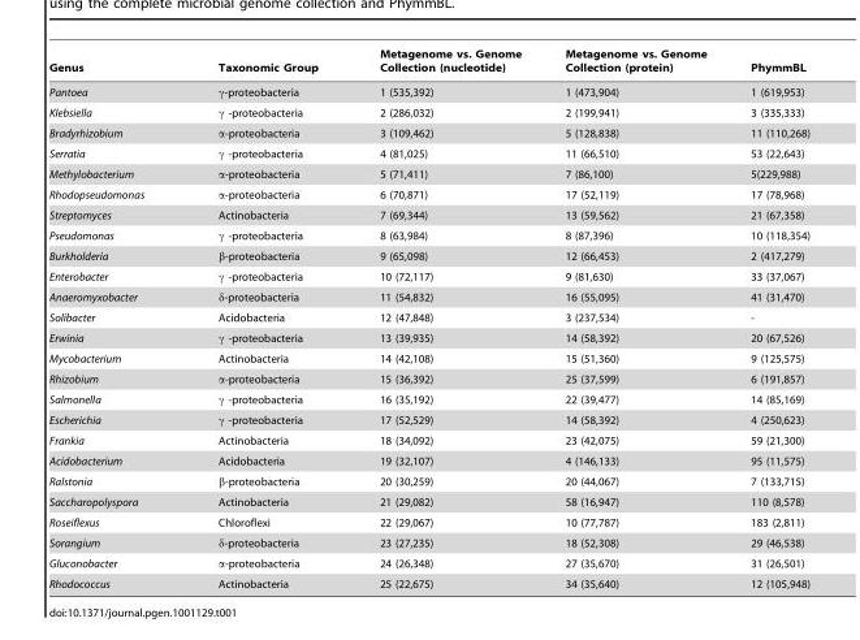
<table><thead><tr><td>Genus</td><td>Taxonomic Group</td><td>Metagenome vs. Genome Collection (nucleotide)</td><td>Metagenome vs. Genome Collection (protein)</td><td>PhymmBL</td></tr></thead><tbody><tr><td>Pantoea</td><td>γ-proteobacteria</td><td>1 (535,392)</td><td>1 (473,904)</td><td>1 (619,953)</td></tr><tr><td>Klebsiella</td><td>γ -proteobacteria</td><td>2 (286,032)</td><td>2 (199,941)</td><td>3 (335,333)</td></tr><tr><td>Bradyrhizobium</td><td>α-proteobacteria</td><td>3 (109,462)</td><td>5 (128,838)</td><td>11 (110,268)</td></tr><tr><td>Serratia</td><td>γ -proteobacteria</td><td>4 (81,025)</td><td>11 (66,510)</td><td>53 (22,643)</td></tr><tr><td>Methylobacterium</td><td>α-proteobacteria</td><td>5 (71,411)</td><td>7 (86,100)</td><td>5(229,988)</td></tr><tr><td>Rhodopseudomonas</td><td>α-proteobacteria</td><td>6 (70,871)</td><td>17 (52,119)</td><td>17 (78,968)</td></tr><tr><td>Streptomyces</td><td>Actinobacteria</td><td>7 (69,344)</td><td>13 (59,562)</td><td>21 (67,358)</td></tr><tr><td>Pseudomonas</td><td>γ -proteobacteria</td><td>8 (63,984)</td><td>8 (87,396)</td><td>10 (118,354)</td></tr><tr><td>Burkholderia</td><td>β-proteobacteria</td><td>9 (65,098)</td><td>12 (66,453)</td><td>2 (417,279)</td></tr><tr><td>Enterobacter</td><td>γ -proteobacteria</td><td>10 (72,117)</td><td>9 (81,630)</td><td>33 (37,067)</td></tr><tr><td>Anaeromyxobacter</td><td>δ-proteobacteria</td><td>11 (54,832)</td><td>16 (55,095)</td><td>41 (31,470)</td></tr><tr><td>Solibacter</td><td>Acidobacteria</td><td>12 (47,848)</td><td>3 (237,534)</td><td>-</td></tr><tr><td>Erwinia</td><td>γ -proteobacteria</td><td>13 (39,935)</td><td>14 (58,392)</td><td>20 (67,526)</td></tr><tr><td>Mycobacterium</td><td>Actinobacteria</td><td>14 (42,108)</td><td>15 (51,360)</td><td>9 (125,575)</td></tr><tr><td>Rhizobium</td><td>α-proteobacteria</td><td>15 (36,392)</td><td>25 (37,599)</td><td>6 (191,857)</td></tr><tr><td>Salmonella</td><td>γ -proteobacteria</td><td>16 (35,192)</td><td>22 (39,477)</td><td>14 (85,169)</td></tr><tr><td>Escherichia</td><td>γ -proteobacteria</td><td>17 (52,529)</td><td>14 (58,392)</td><td>4 (250,623)</td></tr><tr><td>Frankia</td><td>Actinobacteria</td><td>18 (34,092)</td><td>23 (42,075)</td><td>59 (21,300)</td></tr><tr><td>Acidobacterium</td><td>Acidobacteria</td><td>19 (32,107)</td><td>4 (146,133)</td><td>95 (11,575)</td></tr><tr><td>Ralstonia</td><td>β-proteobacteria</td><td>20 (30,259)</td><td>20 (44,067)</td><td>7 (133,715)</td></tr><tr><td>Saccharopolyspora</td><td>Actinobacteria</td><td>21 (29,082)</td><td>58 (16,947)</td><td>110 (8,578)</td></tr><tr><td>Roseiflexus</td><td>Chloroflexi</td><td>22 (29,067)</td><td>10 (77,787)</td><td>183 (2,811)</td></tr><tr><td>Sorangium</td><td>δ-proteobacteria</td><td>23 (27,235)</td><td>18 (52,308)</td><td>29 (46,538)</td></tr><tr><td>Gluconobacter</td><td>α-proteobacteria</td><td>24 (26,348)</td><td>27 (35,670)</td><td>31 (26,501)</td></tr><tr><td>Rhodococcus</td><td>Actinobacteria</td><td>25 (22,675)</td><td>34 (35,640)</td><td>12 (105,948)</td></tr></tbody></table>